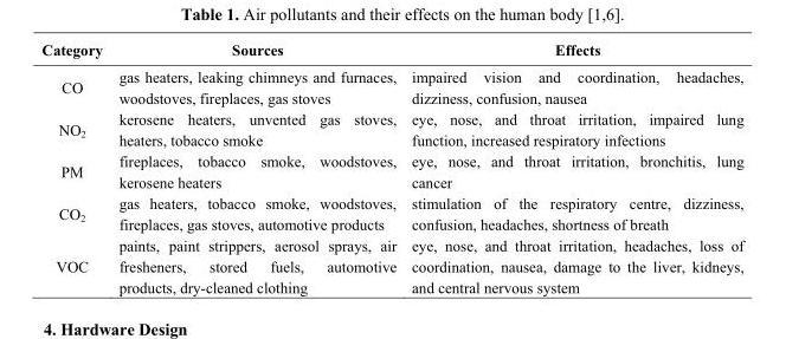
<table><thead><tr><td>Category</td><td>Sources</td><td>Effects</td></tr></thead><tbody><tr><td>CO</td><td>gas heaters, leaking chimneys and furnaces, woodstoves, fireplaces, gas stoves</td><td>impaired vision and coordination, headaches, dizziness, confusion, nausea</td></tr><tr><td>NO<sub>2</sub></td><td>kerosene heaters, unvented gas stoves, heaters, tobacco smoke</td><td>eye, nose, and throat irritation, impaired lung function, increased respiratory infections</td></tr><tr><td>PM</td><td>fireplaces, tobacco smoke, woodstoves, kerosene heaters</td><td>eye, nose, and throat irritation, bronchitis, lung cancer</td></tr><tr><td>CO<sub>2</sub></td><td>gas heaters, tobacco smoke, woodstoves, fireplaces, gas stoves, automotive products</td><td>stimulation of the respiratory centre, dizziness, confusion, headaches, shortness of breath</td></tr><tr><td>VOC</td><td>paints, paint strippers, aerosol sprays, air fresheners, stored fuels, automotive products, dry-cleaned clothing</td><td>eye, nose, and throat irritation, headaches, loss of coordination, nausea, damage to the liver, kidneys, and central nervous system</td></tr></tbody></table>